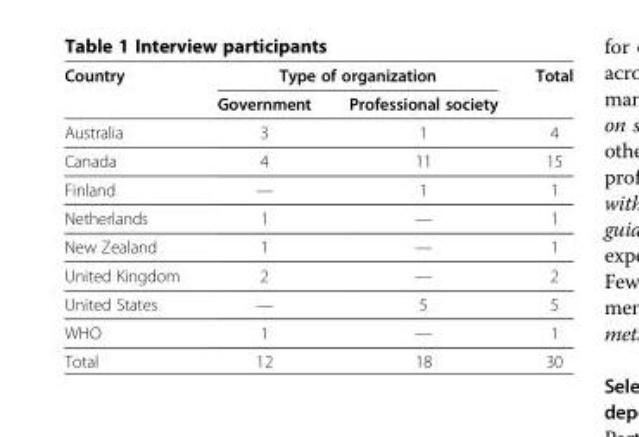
<table><thead><tr><td rowspan="2">Country</td><td colspan="2">Type of organization</td><td rowspan="2">Total</td></tr><tr><td>Government</td><td>Professional society</td></tr></thead><tbody><tr><td>Australia</td><td>3</td><td>1</td><td>4</td></tr><tr><td>Canada</td><td>4</td><td>11</td><td>15</td></tr><tr><td>Finland</td><td>—</td><td>1</td><td>1</td></tr><tr><td>Netherlands</td><td>1</td><td>—</td><td>1</td></tr><tr><td>New Zealand</td><td>1</td><td>—</td><td>1</td></tr><tr><td>United Kingdom</td><td>2</td><td>—</td><td>2</td></tr><tr><td>United States</td><td>—</td><td>5</td><td>5</td></tr><tr><td>WHO</td><td>1</td><td>—</td><td>1</td></tr><tr><td>Total</td><td>12</td><td>18</td><td>30</td></tr></tbody></table>